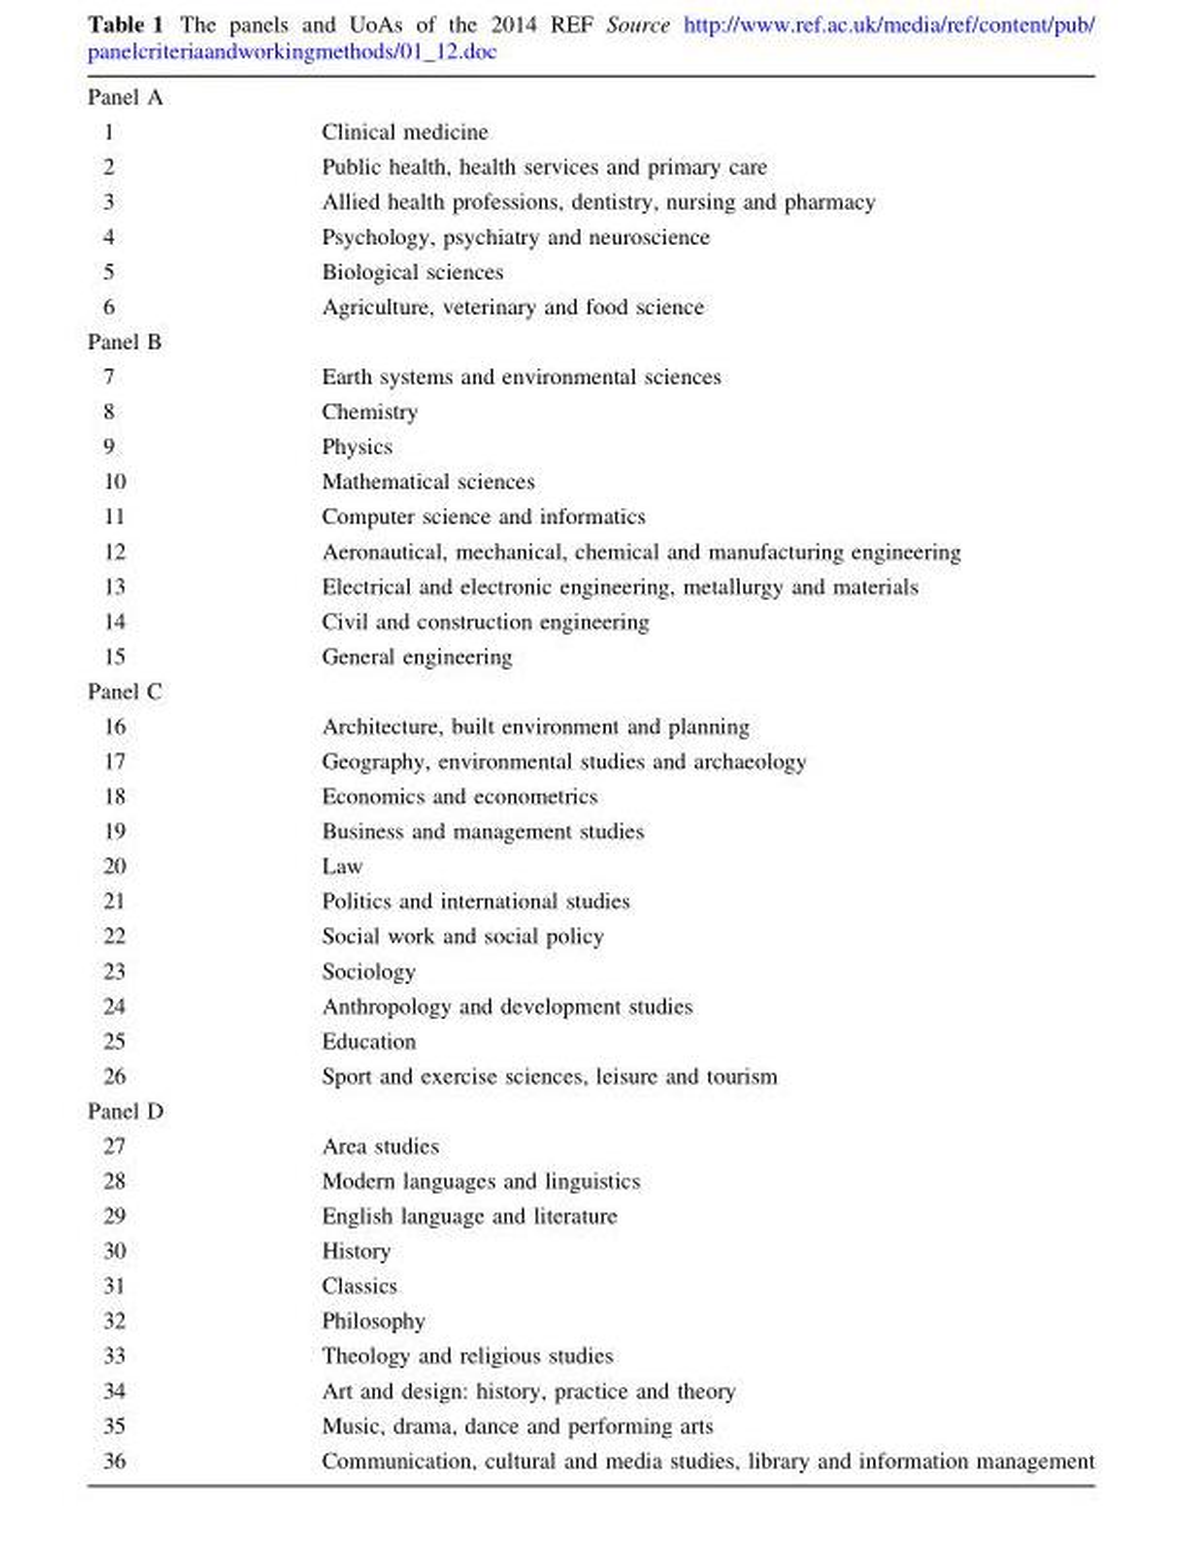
<table><tbody><tr><td colspan="2">Panel A</td></tr><tr><td>1</td><td>Clinical medicine</td></tr><tr><td>2</td><td>Public health, health services and primary care</td></tr><tr><td>3</td><td>Allied health professions, dentistry, nursing and pharmacy</td></tr><tr><td>4</td><td>Psychology, psychiatry and neuroscience</td></tr><tr><td>5</td><td>Biological sciences</td></tr><tr><td>6</td><td>Agriculture, veterinary and food science</td></tr><tr><td colspan="2">Panel B</td></tr><tr><td>7</td><td>Earth systems and environmental sciences</td></tr><tr><td>8</td><td>Chemistry</td></tr><tr><td>9</td><td>Physics</td></tr><tr><td>10</td><td>Mathematical sciences</td></tr><tr><td>11</td><td>Computer science and informatics</td></tr><tr><td>12</td><td>Aeronautical, mechanical, chemical and manufacturing engineering</td></tr><tr><td>13</td><td>Electrical and electronic engineering, metallurgy and materials</td></tr><tr><td>14</td><td>Civil and construction engineering</td></tr><tr><td>15</td><td>General engineering</td></tr><tr><td colspan="2">Panel C</td></tr><tr><td>16</td><td>Architecture, built environment and planning</td></tr><tr><td>17</td><td>Geography, environmental studies and archaeology</td></tr><tr><td>18</td><td>Economics and econometrics</td></tr><tr><td>19</td><td>Business and management studies</td></tr><tr><td>20</td><td>Law</td></tr><tr><td>21</td><td>Politics and international studies</td></tr><tr><td>22</td><td>Social work and social policy</td></tr><tr><td>23</td><td>Sociology</td></tr><tr><td>24</td><td>Anthropology and development studies</td></tr><tr><td>25</td><td>Education</td></tr><tr><td>26</td><td>Sport and exercise sciences, leisure and tourism</td></tr><tr><td colspan="2">Panel D</td></tr><tr><td>27</td><td>Area studies</td></tr><tr><td>28</td><td>Modern languages and linguistics</td></tr><tr><td>29</td><td>English language and literature</td></tr><tr><td>30</td><td>History</td></tr><tr><td>31</td><td>Classics</td></tr><tr><td>32</td><td>Philosophy</td></tr><tr><td>33</td><td>Theology and religious studies</td></tr><tr><td>34</td><td>Art and design: history, practice and theory</td></tr><tr><td>35</td><td>Music, drama, dance and performing arts</td></tr><tr><td>36</td><td>Communication, cultural and media studies, library and information management</td></tr></tbody></table>